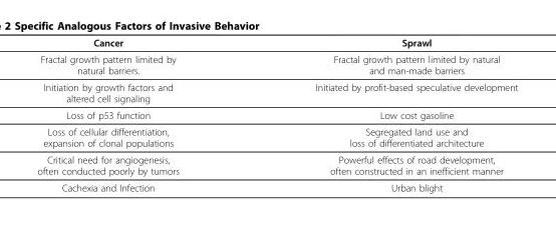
<table><thead><tr><td>Cancer</td><td>Sprawl</td></tr></thead><tbody><tr><td>Fractal growth pattern limited by natural barriers.</td><td>Fractal growth pattern limited by natural and man-made barriers</td></tr><tr><td>Initiation by growth factors and altered cell signaling</td><td>Initiated by profit-based speculative development</td></tr><tr><td>Loss of p53 function</td><td>Low cost gasoline</td></tr><tr><td>Loss of cellular differentiation, expansion of clonal populations</td><td>Segregated land use and loss of differentiated architecture</td></tr><tr><td>Critical need for angiogenesis, often conducted poorly by tumors</td><td>Powerful effects of road development, often constructed in an inefficient manner</td></tr><tr><td>Cachexia and Infection</td><td>Urban blight</td></tr></tbody></table>